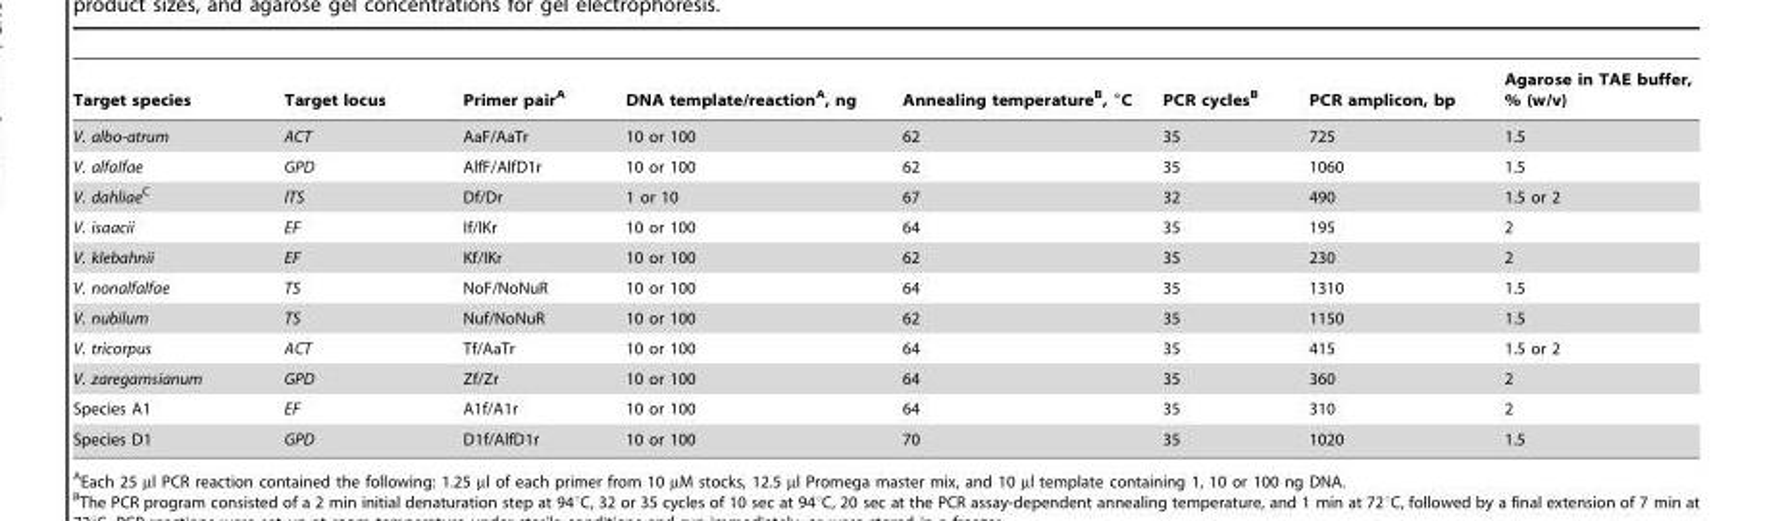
<table><thead><tr><td>Target species</td><td>Target locus</td><td>Primer pair<sup>A</sup></td><td>DNA template/reaction<sup>A</sup>, ng</td><td>Annealing temperature<sup>B</sup>, °C</td><td>PCR cycles<sup>B</sup></td><td>PCR amplicon, bp</td><td>Agarose in TAE buffer, % (w/v)</td></tr></thead><tbody><tr><td>V. albo-atrum</td><td>ACT</td><td>AaF/AaTr</td><td>10 or 100</td><td>62</td><td>35</td><td>725</td><td>1.5</td></tr><tr><td>V. alfalfae</td><td>GPD</td><td>AlfF/AlfD1r</td><td>10 or 100</td><td>62</td><td>35</td><td>1060</td><td>1.5</td></tr><tr><td>V. dahliaeC</td><td>ITS</td><td>Df/Dr</td><td>1 or 10</td><td>67</td><td>32</td><td>490</td><td>1.5 or 2</td></tr><tr><td>V. isaacii</td><td>EF</td><td>If/IKr</td><td>10 or 100</td><td>64</td><td>35</td><td>195</td><td>2</td></tr><tr><td>V. klebahnii</td><td>EF</td><td>Kf/IKr</td><td>10 or 100</td><td>62</td><td>35</td><td>230</td><td>2</td></tr><tr><td>V. nonalfalfae</td><td>TS</td><td>NoF/NoNuR</td><td>10 or 100</td><td>64</td><td>35</td><td>1310</td><td>1.5</td></tr><tr><td>V. nubilum</td><td>TS</td><td>Nuf/NoNuR</td><td>10 or 100</td><td>62</td><td>35</td><td>1150</td><td>1.5</td></tr><tr><td>V. tricorpus</td><td>ACT</td><td>Tf/AaTr</td><td>10 or 100</td><td>64</td><td>35</td><td>415</td><td>1.5 or 2</td></tr><tr><td>V. zaregamsianum</td><td>GPD</td><td>Zf/Zr</td><td>10 or 100</td><td>64</td><td>35</td><td>360</td><td>2</td></tr><tr><td>Species A1</td><td>EF</td><td>A1f/A1r</td><td>10 or 100</td><td>64</td><td>35</td><td>310</td><td>2</td></tr><tr><td>Species D1</td><td>GPD</td><td>D1f/AlfD1r</td><td>10 or 100</td><td>70</td><td>35</td><td>1020</td><td>1.5</td></tr></tbody></table>